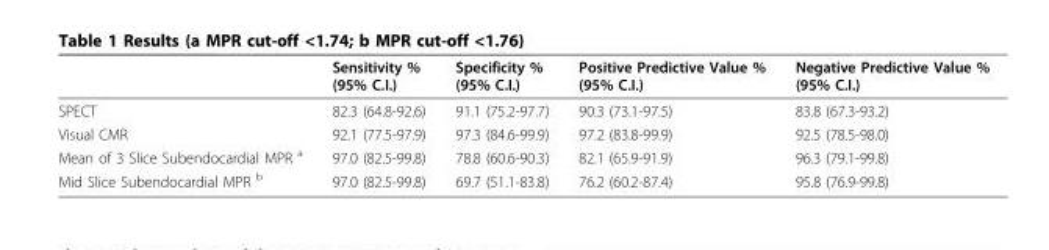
<table><thead><tr><td></td><td>Sensitivity % (95% C.I.)</td><td>Specificity % (95% C.I.)</td><td>Positive Predictive Value % (95% C.I.)</td><td>Negative Predictive Value % (95% C.I.)</td></tr></thead><tbody><tr><td>SPECT</td><td>82.3 (64.8-92.6)</td><td>91.1 (75.2-97.7)</td><td>90.3 (73.1-97.5)</td><td>83.8 (67.3-93.2)</td></tr><tr><td>Visual CMR</td><td>92.1 (77.5-97.9)</td><td>97.3 (84.6-99.9)</td><td>97.2 (83.8-99.9)</td><td>92.5 (78.5-98.0)</td></tr><tr><td>Mean of 3 Slice Subendocardial MPR <sup>a</sup></td><td>97.0 (82.5-99.8)</td><td>78.8 (60.6-90.3)</td><td>82.1 (65.9-91.9)</td><td>96.3 (79.1-99.8)</td></tr><tr><td>Mid Slice Subendocardial MPR <sup>b</sup></td><td>97.0 (82.5-99.8)</td><td>69.7 (51.1-83.8)</td><td>76.2 (60.2-87.4)</td><td>95.8 (76.9-99.8)</td></tr></tbody></table>